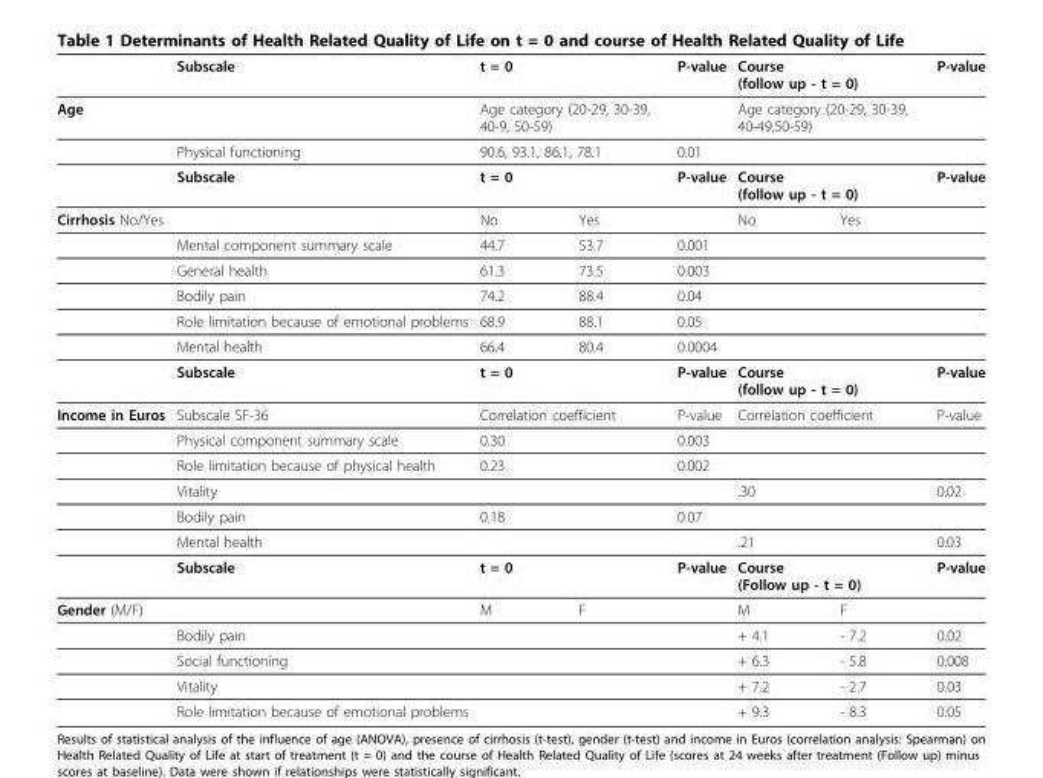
<table><thead><tr><td></td><td>Subscale</td><td colspan="2">t = 0</td><td>P-value</td><td colspan="2">Course (follow up - t = 0)</td><td>P-value</td></tr></thead><tbody><tr><td rowspan="3">Age</td><td></td><td colspan="2">Age category (20-29, 30-39, 40-9, 50-59)</td><td></td><td colspan="2">Age category (20-29, 30-39, 40-49,50-59)</td><td></td></tr><tr><td>Physical functioning</td><td colspan="2">90.6, 93.1, 86.1, 78.1</td><td>0.01</td><td></td><td></td><td></td></tr><tr><td>Subscale</td><td colspan="2">t = 0</td><td>P-value</td><td colspan="2">Course (follow up - t = 0)</td><td>P-value</td></tr><tr><td rowspan="7">Cirrhosis No/Yes</td><td></td><td>No</td><td>Yes</td><td></td><td>No</td><td>Yes</td><td></td></tr><tr><td>Mental component summary scale</td><td>44.7</td><td>53.7</td><td>0.001</td><td></td><td></td><td></td></tr><tr><td>General health</td><td>61.3</td><td>73.5</td><td>0.003</td><td></td><td></td><td></td></tr><tr><td>Bodily pain</td><td>74.2</td><td>88.4</td><td>0.04</td><td></td><td></td><td></td></tr><tr><td>Role limitation because of emotional problems</td><td>68.9</td><td>88.1</td><td>0.05</td><td></td><td></td><td></td></tr><tr><td>Mental health</td><td>66.4</td><td>80.4</td><td>0.0004</td><td></td><td></td><td></td></tr><tr><td>Subscale</td><td colspan="2">t = 0</td><td>P-value</td><td colspan="2">Course (follow up - t = 0)</td><td>P-value</td></tr><tr><td rowspan="7">Income in Euros</td><td>Subscale SF-36</td><td colspan="2">Correlation coefficient</td><td>P-value</td><td colspan="2">Correlation coefficient</td><td>P-value</td></tr><tr><td>Physical component summary scale</td><td colspan="2">0.30</td><td>0.003</td><td></td><td></td><td></td></tr><tr><td>Role limitation because of physical health</td><td colspan="2">0.23</td><td>0.002</td><td></td><td></td><td></td></tr><tr><td>Vitality</td><td></td><td></td><td></td><td colspan="2">.30</td><td>0.02</td></tr><tr><td>Bodily pain</td><td colspan="2">0.18</td><td>0.07</td><td></td><td></td><td></td></tr><tr><td>Mental health</td><td></td><td></td><td></td><td colspan="2">.21</td><td>0.03</td></tr><tr><td>Subscale</td><td colspan="2">t = 0</td><td>P-value</td><td colspan="2">Course (Follow up - t = 0)</td><td>P-value</td></tr><tr><td rowspan="5">Gender (M/F)</td><td></td><td>M</td><td>F</td><td></td><td>M</td><td>F</td><td></td></tr><tr><td>Bodily pain</td><td></td><td></td><td></td><td>+ 4.1</td><td>- 7.2</td><td>0.02</td></tr><tr><td>Social functioning</td><td></td><td></td><td></td><td>+ 6.3</td><td>- 5.8</td><td>0.008</td></tr><tr><td>Vitality</td><td></td><td></td><td></td><td>+ 7.2</td><td>- 2.7</td><td>0.03</td></tr><tr><td>Role limitation because of emotional problems</td><td></td><td></td><td></td><td>+ 9.3</td><td>- 8.3</td><td>0.05</td></tr></tbody></table>